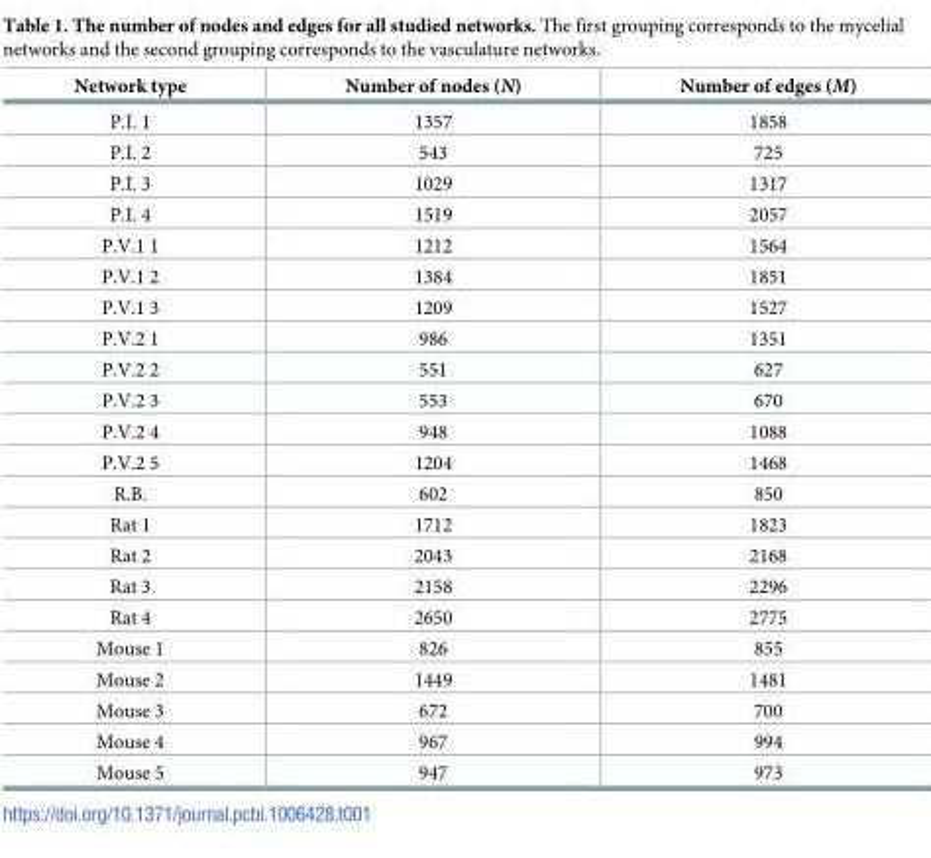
<table><thead><tr><td>Network type</td><td>Number of nodes (N)</td><td>Number of edges (M)</td></tr></thead><tbody><tr><td>P.I. 1</td><td>1357</td><td>1858</td></tr><tr><td>P.I. 2</td><td>543</td><td>725</td></tr><tr><td>P.I. 3</td><td>1029</td><td>1317</td></tr><tr><td>P.I. 4</td><td>1519</td><td>2057</td></tr><tr><td>P.V.1 1</td><td>1212</td><td>1564</td></tr><tr><td>P.V.1 2</td><td>1384</td><td>1851</td></tr><tr><td>P.V.1 3</td><td>1209</td><td>1527</td></tr><tr><td>P.V.2 1</td><td>986</td><td>1351</td></tr><tr><td>P.V.2 2</td><td>551</td><td>627</td></tr><tr><td>P.V.2 3</td><td>553</td><td>670</td></tr><tr><td>P.V.2 4</td><td>948</td><td>1088</td></tr><tr><td>P.V.2 5</td><td>1204</td><td>1468</td></tr><tr><td>R.B.</td><td>602</td><td>850</td></tr><tr><td>Rat 1</td><td>1712</td><td>1823</td></tr><tr><td>Rat 2</td><td>2043</td><td>2168</td></tr><tr><td>Rat 3</td><td>2158</td><td>2296</td></tr><tr><td>Rat 4</td><td>2650</td><td>2775</td></tr><tr><td>Mouse 1</td><td>826</td><td>855</td></tr><tr><td>Mouse 2</td><td>1449</td><td>1481</td></tr><tr><td>Mouse 3</td><td>672</td><td>700</td></tr><tr><td>Mouse 4</td><td>967</td><td>994</td></tr><tr><td>Mouse 5</td><td>947</td><td>973</td></tr></tbody></table>